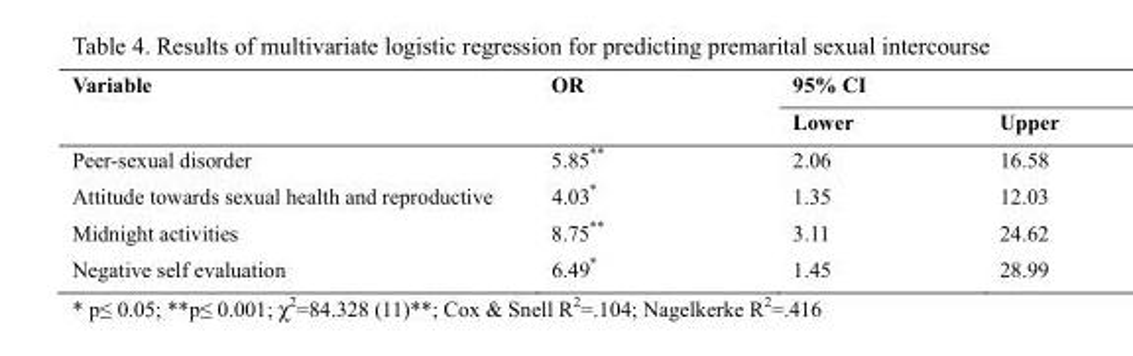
<table><thead><tr><td rowspan="2">Variable</td><td rowspan="2">OR</td><td colspan="2">95% CI</td></tr><tr><td>Lower</td><td>Upper</td></tr></thead><tbody><tr><td>Peer-sexual disorder</td><td>5.85**</td><td>2.06</td><td>16.58</td></tr><tr><td>Attitude towards sexual health and reproductive</td><td>4.03*</td><td>1.35</td><td>12.03</td></tr><tr><td>Midnight activities</td><td>8.75**</td><td>3.11</td><td>24.62</td></tr><tr><td>Negative self evaluation</td><td>6.49*</td><td>1.45</td><td>28.99</td></tr></tbody></table>